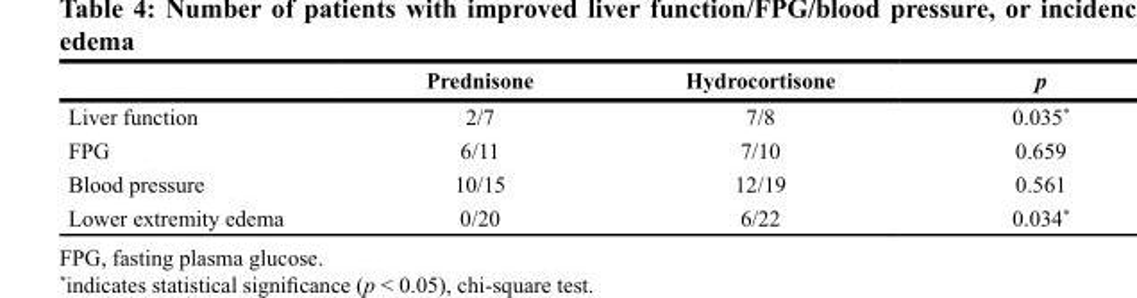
<table><thead><tr><td></td><td>Prednisone</td><td>Hydrocortisone</td><td>p</td></tr></thead><tbody><tr><td>Liver function</td><td>2/7</td><td>7/8</td><td>0.035*</td></tr><tr><td>FPG</td><td>6/11</td><td>7/10</td><td>0.659</td></tr><tr><td>Blood pressure</td><td>10/15</td><td>12/19</td><td>0.561</td></tr><tr><td>Lower extremity edema</td><td>0/20</td><td>6/22</td><td>0.034*</td></tr></tbody></table>